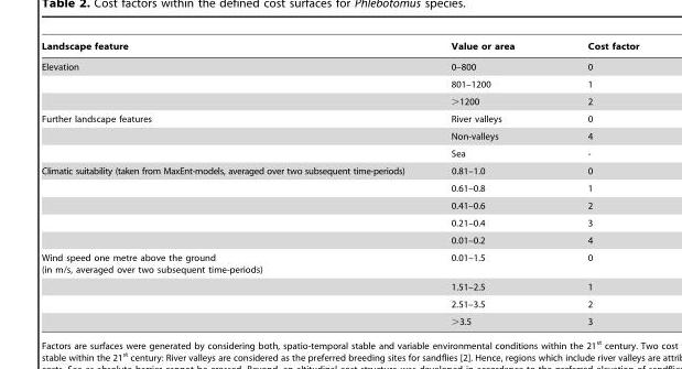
<table><thead><tr><td>Landscape feature</td><td>Value or area</td><td>Cost factor</td></tr></thead><tbody><tr><td rowspan="3">Elevation</td><td>0–800</td><td>0</td></tr><tr><td>801–1200</td><td>1</td></tr><tr><td>&gt;1200</td><td>2</td></tr><tr><td rowspan="3">Further landscape features</td><td>River valleys</td><td>0</td></tr><tr><td>Non-valleys</td><td>4</td></tr><tr><td>Sea</td><td>-</td></tr><tr><td rowspan="5">Climatic suitability (taken from MaxEnt-models, averaged over two subsequent time-periods)</td><td>0.81–1.0</td><td>0</td></tr><tr><td>0.61–0.8</td><td>1</td></tr><tr><td>0.41–0.6</td><td>2</td></tr><tr><td>0.21–0.4</td><td>3</td></tr><tr><td>0.01–0.2</td><td>4</td></tr><tr><td rowspan="4">Wind speed one metre above the ground (in m/s, averaged over two subsequent time-periods)</td><td>0.01–1.5</td><td>0</td></tr><tr><td>1.51–2.5</td><td>1</td></tr><tr><td>2.51–3.5</td><td>2</td></tr><tr><td>&gt;3.5</td><td>3</td></tr></tbody></table>